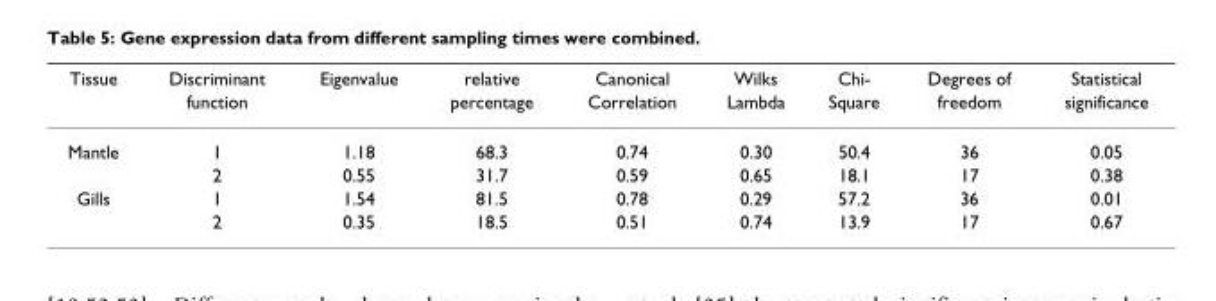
<table><thead><tr><td rowspan="2">Tissue</td><td rowspan="2">Discriminant function</td><td rowspan="2">Eigenvalue</td><td rowspan="2">relative percentage</td><td rowspan="2">Canonical Correlation</td><td rowspan="2">Wilks Lambda</td><td rowspan="2">Chi- Square</td><td rowspan="2">Degrees of freedom</td><td rowspan="2">Statistical significance</td></tr><tr></tr></thead><tbody><tr><td rowspan="2">Mantle</td><td>1</td><td>1.18</td><td>68.3</td><td>0.74</td><td>0.30</td><td>50.4</td><td>36</td><td>0.05</td></tr><tr><td>2</td><td>0.55</td><td>31.7</td><td>0.59</td><td>0.65</td><td>18.1</td><td>17</td><td>0.38</td></tr><tr><td rowspan="2">Gills</td><td>1</td><td>1.54</td><td>81.5</td><td>0.78</td><td>0.29</td><td>57.2</td><td>36</td><td>0.01</td></tr><tr><td>2</td><td>0.35</td><td>18.5</td><td>0.51</td><td>0.74</td><td>13.9</td><td>17</td><td>0.67</td></tr></tbody></table>